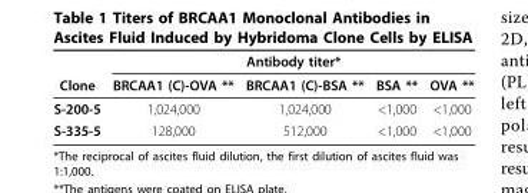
<table><thead><tr><td rowspan="2">Clone</td><td colspan="4">Antibody titer*</td></tr><tr><td>BRCAA1 (C)-OVA **</td><td>BRCAA1 (C)-BSA **</td><td>BSA **</td><td>OVA **</td></tr></thead><tbody><tr><td>S-200-5</td><td>1,024,000</td><td>1,024,000</td><td>&lt;1,000</td><td>&lt;1,000</td></tr><tr><td>S-335-5</td><td>128,000</td><td>512,000</td><td>&lt;1,000</td><td>&lt;1,000</td></tr></tbody></table>